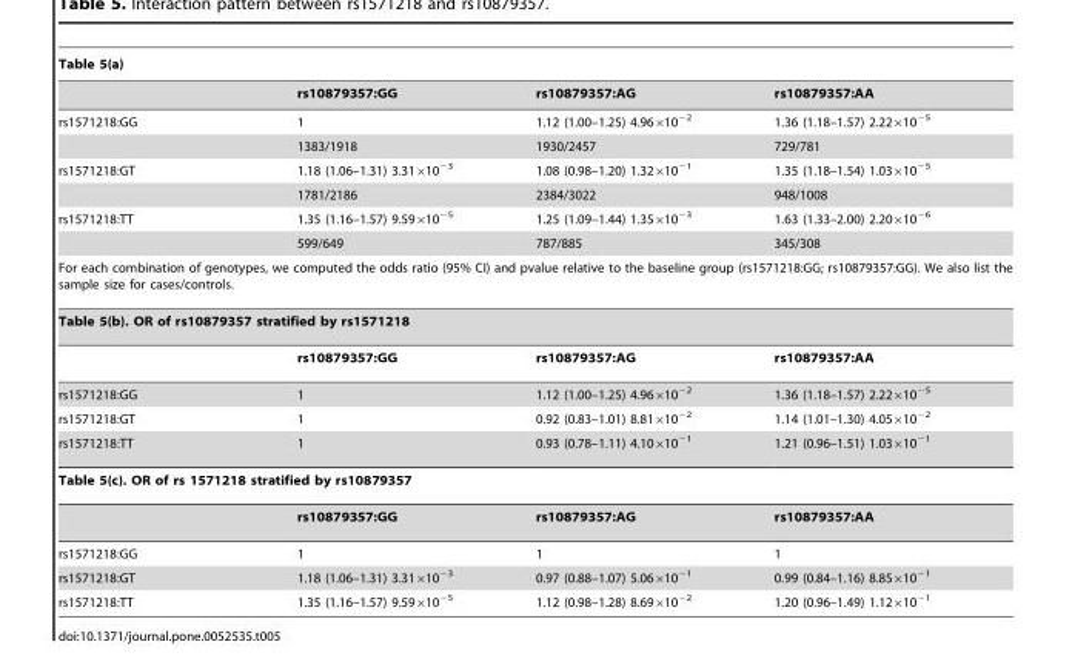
<table><thead><tr><td colspan="4">Table 5(a)</td></tr><tr><td></td><td>rs10879357:GG</td><td>rs10879357:AG</td><td>rs10879357:AA</td></tr></thead><tbody><tr><td rowspan="2">rs1571218:GG</td><td>1</td><td>1.12 (1.00–1.25) 4.96×10<sup>−2</sup></td><td>1.36 (1.18–1.57) 2.22×10<sup>−5</sup></td></tr><tr><td>1383/1918</td><td>1930/2457</td><td>729/781</td></tr><tr><td rowspan="2">rs1571218:GT</td><td>1.18 (1.06–1.31) 3.31×10<sup>−3</sup></td><td>1.08 (0.98–1.20) 1.32×10<sup>−1</sup></td><td>1.35 (1.18–1.54) 1.03×10<sup>−5</sup></td></tr><tr><td>1781/2186</td><td>2384/3022</td><td>948/1008</td></tr><tr><td rowspan="2">rs1571218:TT</td><td>1.35 (1.16–1.57) 9.59×10<sup>−5</sup></td><td>1.25 (1.09–1.44) 1.35×10<sup>−3</sup></td><td>1.63 (1.33–2.00) 2.20×10<sup>−6</sup></td></tr><tr><td>599/649</td><td>787/885</td><td>345/308</td></tr><tr><td colspan="4">For each combination of genotypes, we computed the odds ratio (95% CI) and pvalue relative to the baseline group (rs1571218:GG; rs10879357:GG). We also list the sample size for cases/controls.</td></tr><tr><td colspan="4">Table 5(b). OR of rs10879357 stratified by rs1571218</td></tr><tr><td></td><td>rs10879357:GG</td><td>rs10879357:AG</td><td>rs10879357:AA</td></tr><tr><td>rs1571218:GG</td><td>1</td><td>1.12 (1.00–1.25) 4.96×10<sup>−2</sup></td><td>1.36 (1.18–1.57) 2.22×10<sup>−5</sup></td></tr><tr><td>rs1571218:GT</td><td>1</td><td>0.92 (0.83–1.01) 8.81×10<sup>−2</sup></td><td>1.14 (1.01–1.30) 4.05×10<sup>−2</sup></td></tr><tr><td>rs1571218:TT</td><td>1</td><td>0.93 (0.78–1.11) 4.10×10<sup>−1</sup></td><td>1.21 (0.96–1.51) 1.03×10<sup>−1</sup></td></tr><tr><td colspan="4">Table 5(c). OR of rs 1571218 stratified by rs10879357</td></tr><tr><td></td><td>rs10879357:GG</td><td>rs10879357:AG</td><td>rs10879357:AA</td></tr><tr><td>rs1571218:GG</td><td>1</td><td>1</td><td>1</td></tr><tr><td>rs1571218:GT</td><td>1.18 (1.06–1.31) 3.31×10<sup>−3</sup></td><td>0.97 (0.88–1.07) 5.06×10<sup>−1</sup></td><td>0.99 (0.84–1.16) 8.85×10<sup>−1</sup></td></tr><tr><td>rs1571218:TT</td><td>1.35 (1.16–1.57) 9.59×10<sup>−5</sup></td><td>1.12 (0.98–1.28) 8.69×10<sup>−2</sup></td><td>1.20 (0.96–1.49) 1.12×10<sup>−1</sup></td></tr></tbody></table>